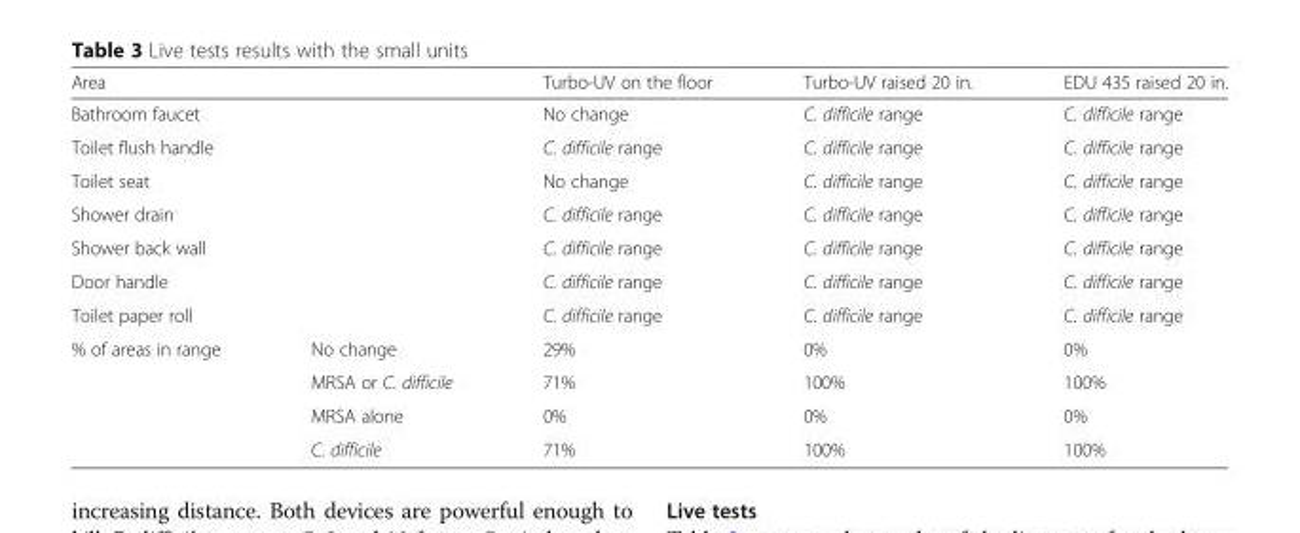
<table><thead><tr><td colspan="2">Area</td><td>Turbo-UV on the floor</td><td>Turbo-UV raised 20 in.</td><td>EDU 435 raised 20 in.</td></tr></thead><tbody><tr><td colspan="2">Bathroom faucet</td><td>No change</td><td>C. difficile range</td><td>C. difficile range</td></tr><tr><td colspan="2">Toilet flush handle</td><td>C. difficile range</td><td>C. difficile range</td><td>C. difficile range</td></tr><tr><td colspan="2">Toilet seat</td><td>No change</td><td>C. difficile range</td><td>C. difficile range</td></tr><tr><td colspan="2">Shower drain</td><td>C. difficile range</td><td>C. difficile range</td><td>C. difficile range</td></tr><tr><td colspan="2">Shower back wall</td><td>C. difficile range</td><td>C. difficile range</td><td>C. difficile range</td></tr><tr><td colspan="2">Door handle</td><td>C. difficile range</td><td>C. difficile range</td><td>C. difficile range</td></tr><tr><td colspan="2">Toilet paper roll</td><td>C. difficile range</td><td>C. difficile range</td><td>C. difficile range</td></tr><tr><td rowspan="4">% of areas in range</td><td>No change</td><td>29%</td><td>0%</td><td>0%</td></tr><tr><td>MRSA or C. difficile</td><td>71%</td><td>100%</td><td>100%</td></tr><tr><td>MRSA alone</td><td>0%</td><td>0%</td><td>0%</td></tr><tr><td>C. difficile</td><td>71%</td><td>100%</td><td>100%</td></tr></tbody></table>